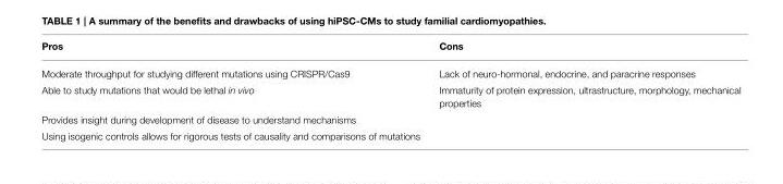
<table><thead><tr><td>Pros</td><td>Cons</td></tr></thead><tbody><tr><td>Moderate throughput for studying different mutations using CRISPR/Cas9</td><td>Lack of neuro-hormonal, endocrine, and paracrine responses</td></tr><tr><td>Able to study mutations that would be lethal in vivo</td><td>Immaturity of protein expression, ultrastructure, morphology, mechanical properties</td></tr><tr><td colspan="2">Provides insight during development of disease to understand mechanisms</td></tr><tr><td>Using isogenic controls allows for rigorous tests of causality and comparisons of mutations</td><td></td></tr></tbody></table>